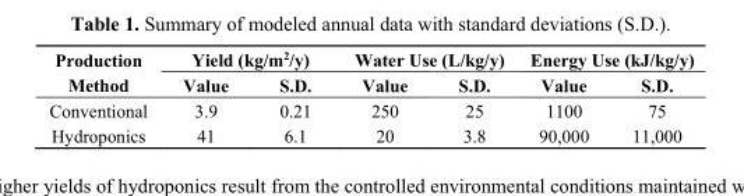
<table><thead><tr><td rowspan="2">Production Method</td><td colspan="2">Yield (kg/m<sup>2</sup>/y)</td><td colspan="2">Water Use (L/kg/y)</td><td colspan="2">Energy Use (kJ/kg/y)</td></tr><tr><td>Value</td><td>S.D.</td><td>Value</td><td>S.D.</td><td>Value</td><td>S.D.</td></tr></thead><tbody><tr><td>Conventional</td><td>3.9</td><td>0.21</td><td>250</td><td>25</td><td>1100</td><td>75</td></tr><tr><td>Hydroponics</td><td>41</td><td>6.1</td><td>20</td><td>3.8</td><td>90,000</td><td>11,000</td></tr></tbody></table>